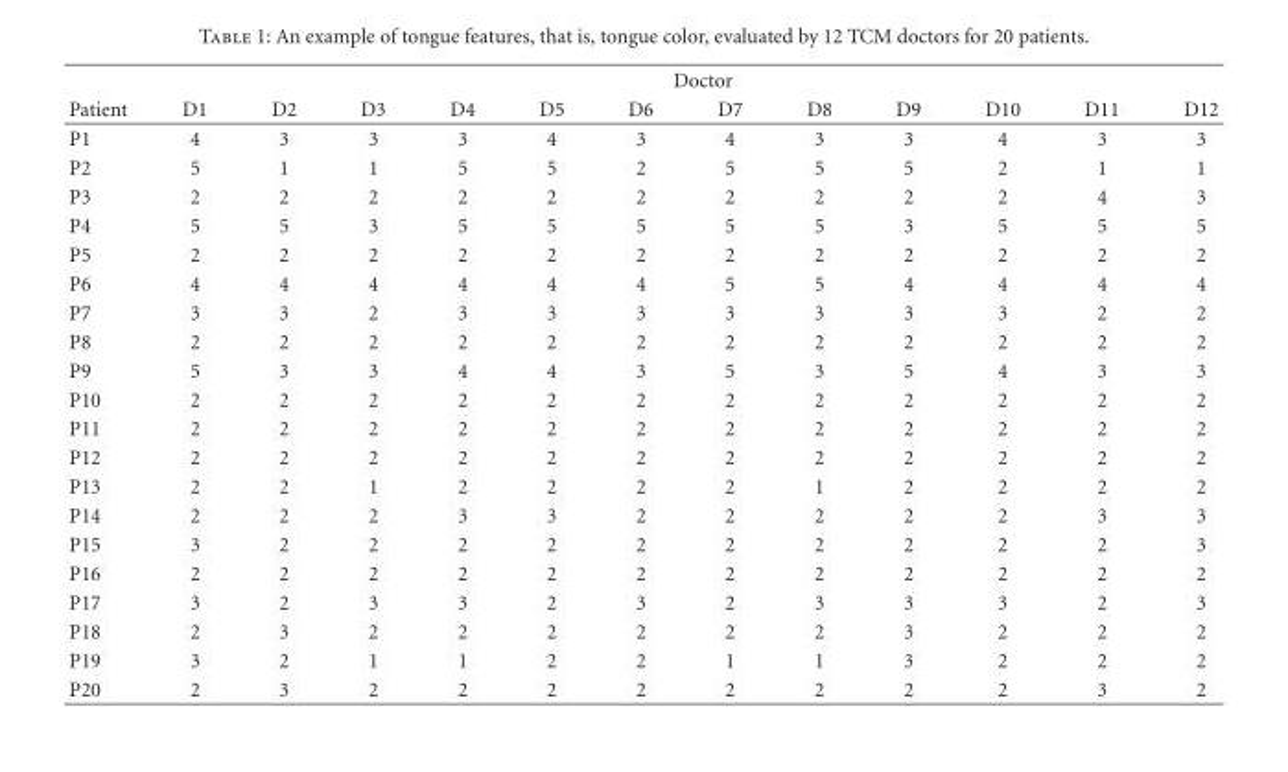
<table><thead><tr><td rowspan="2">Patient</td><td colspan="12">Doctor</td></tr><tr><td>D1</td><td>D2</td><td>D3</td><td>D4</td><td>D5</td><td>D6</td><td>D7</td><td>D8</td><td>D9</td><td>D10</td><td>D11</td><td>D12</td></tr></thead><tbody><tr><td>P1</td><td>4</td><td>3</td><td>3</td><td>3</td><td>4</td><td>3</td><td>4</td><td>3</td><td>3</td><td>4</td><td>3</td><td>3</td></tr><tr><td>P2</td><td>5</td><td>1</td><td>1</td><td>5</td><td>5</td><td>2</td><td>5</td><td>5</td><td>5</td><td>2</td><td>1</td><td>1</td></tr><tr><td>P3</td><td>2</td><td>2</td><td>2</td><td>2</td><td>2</td><td>2</td><td>2</td><td>2</td><td>2</td><td>2</td><td>4</td><td>3</td></tr><tr><td>P4</td><td>5</td><td>5</td><td>3</td><td>5</td><td>5</td><td>5</td><td>5</td><td>5</td><td>3</td><td>5</td><td>5</td><td>5</td></tr><tr><td>P5</td><td>2</td><td>2</td><td>2</td><td>2</td><td>2</td><td>2</td><td>2</td><td>2</td><td>2</td><td>2</td><td>2</td><td>2</td></tr><tr><td>P6</td><td>4</td><td>4</td><td>4</td><td>4</td><td>4</td><td>4</td><td>5</td><td>5</td><td>4</td><td>4</td><td>4</td><td>4</td></tr><tr><td>P7</td><td>3</td><td>3</td><td>2</td><td>3</td><td>3</td><td>3</td><td>3</td><td>3</td><td>3</td><td>3</td><td>2</td><td>2</td></tr><tr><td>P8</td><td>2</td><td>2</td><td>2</td><td>2</td><td>2</td><td>2</td><td>2</td><td>2</td><td>2</td><td>2</td><td>2</td><td>2</td></tr><tr><td>P9</td><td>5</td><td>3</td><td>3</td><td>4</td><td>4</td><td>3</td><td>5</td><td>3</td><td>5</td><td>4</td><td>3</td><td>3</td></tr><tr><td>P10</td><td>2</td><td>2</td><td>2</td><td>2</td><td>2</td><td>2</td><td>2</td><td>2</td><td>2</td><td>2</td><td>2</td><td>2</td></tr><tr><td>P11</td><td>2</td><td>2</td><td>2</td><td>2</td><td>2</td><td>2</td><td>2</td><td>2</td><td>2</td><td>2</td><td>2</td><td>2</td></tr><tr><td>P12</td><td>2</td><td>2</td><td>2</td><td>2</td><td>2</td><td>2</td><td>2</td><td>2</td><td>2</td><td>2</td><td>2</td><td>2</td></tr><tr><td>P13</td><td>2</td><td>2</td><td>1</td><td>2</td><td>2</td><td>2</td><td>2</td><td>1</td><td>2</td><td>2</td><td>2</td><td>2</td></tr><tr><td>P14</td><td>2</td><td>2</td><td>2</td><td>3</td><td>3</td><td>2</td><td>2</td><td>2</td><td>2</td><td>2</td><td>3</td><td>3</td></tr><tr><td>P15</td><td>3</td><td>2</td><td>2</td><td>2</td><td>2</td><td>2</td><td>2</td><td>2</td><td>2</td><td>2</td><td>2</td><td>3</td></tr><tr><td>P16</td><td>2</td><td>2</td><td>2</td><td>2</td><td>2</td><td>2</td><td>2</td><td>2</td><td>2</td><td>2</td><td>2</td><td>2</td></tr><tr><td>P17</td><td>3</td><td>2</td><td>3</td><td>3</td><td>2</td><td>3</td><td>2</td><td>3</td><td>3</td><td>3</td><td>2</td><td>3</td></tr><tr><td>P18</td><td>2</td><td>3</td><td>2</td><td>2</td><td>2</td><td>2</td><td>2</td><td>2</td><td>3</td><td>2</td><td>2</td><td>2</td></tr><tr><td>P19</td><td>3</td><td>2</td><td>1</td><td>1</td><td>2</td><td>2</td><td>1</td><td>1</td><td>3</td><td>2</td><td>2</td><td>2</td></tr><tr><td>P20</td><td>2</td><td>3</td><td>2</td><td>2</td><td>2</td><td>2</td><td>2</td><td>2</td><td>2</td><td>2</td><td>3</td><td>2</td></tr></tbody></table>